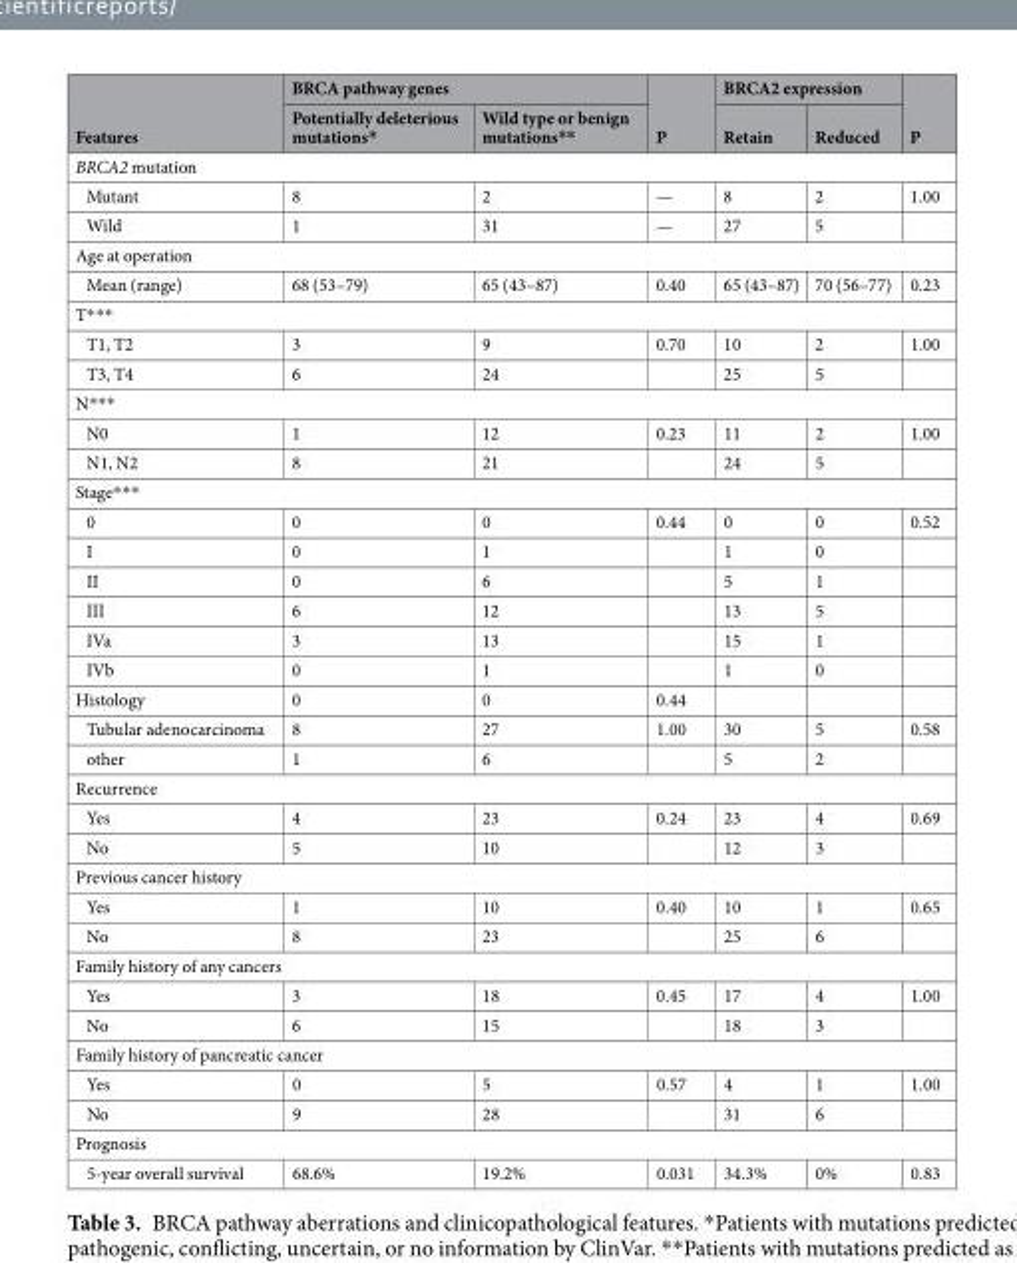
<table><thead><tr><td rowspan="2">Features</td><td colspan="2">BRCA pathway genes</td><td rowspan="2">P</td><td colspan="2">BRCA2 expression</td><td rowspan="2">P</td></tr><tr><td>Potentially deleterious mutations*</td><td>Wild type or benign mutations**</td><td>Retain</td><td>Reduced</td></tr></thead><tbody><tr><td colspan="7">BRCA2 mutation</td></tr><tr><td>Mutant</td><td>8</td><td>2</td><td>—</td><td>8</td><td>2</td><td>1.00</td></tr><tr><td>Wild</td><td>1</td><td>31</td><td>—</td><td>27</td><td>5</td><td></td></tr><tr><td colspan="7">Age at operation</td></tr><tr><td>Mean (range)</td><td>68 (53–79)</td><td>65 (43–87)</td><td>0.40</td><td>65 (43–87)</td><td>70 (56–77)</td><td>0.23</td></tr><tr><td colspan="7">T***</td></tr><tr><td>T1, T2</td><td>3</td><td>9</td><td>0.70</td><td>10</td><td>2</td><td>1.00</td></tr><tr><td>T3, T4</td><td>6</td><td>24</td><td></td><td>25</td><td>5</td><td></td></tr><tr><td colspan="7">N***</td></tr><tr><td>N0</td><td>1</td><td>12</td><td>0.23</td><td>11</td><td>2</td><td>1.00</td></tr><tr><td>N1, N2</td><td>8</td><td>21</td><td></td><td>24</td><td>5</td><td></td></tr><tr><td colspan="7">Stage***</td></tr><tr><td>0</td><td>0</td><td>0</td><td>0.44</td><td>0</td><td>0</td><td>0.52</td></tr><tr><td>I</td><td>0</td><td>1</td><td></td><td>1</td><td>0</td><td></td></tr><tr><td>II</td><td>0</td><td>6</td><td></td><td>5</td><td>1</td><td></td></tr><tr><td>III</td><td>6</td><td>12</td><td></td><td>13</td><td>5</td><td></td></tr><tr><td>IVa</td><td>3</td><td>13</td><td></td><td>15</td><td>1</td><td></td></tr><tr><td>IVb</td><td>0</td><td>1</td><td></td><td>1</td><td>0</td><td></td></tr><tr><td>Histology</td><td>0</td><td>0</td><td>0.44</td><td></td><td></td><td></td></tr><tr><td>Tubular adenocarcinoma</td><td>8</td><td>27</td><td>1.00</td><td>30</td><td>5</td><td>0.58</td></tr><tr><td>other</td><td>1</td><td>6</td><td></td><td>5</td><td>2</td><td></td></tr><tr><td colspan="7">Recurrence</td></tr><tr><td>Yes</td><td>4</td><td>23</td><td>0.24</td><td>23</td><td>4</td><td>0.69</td></tr><tr><td>No</td><td>5</td><td>10</td><td></td><td>12</td><td>3</td><td></td></tr><tr><td colspan="7">Previous cancer history</td></tr><tr><td>Yes</td><td>1</td><td>10</td><td>0.40</td><td>10</td><td>1</td><td>0.65</td></tr><tr><td>No</td><td>8</td><td>23</td><td></td><td>25</td><td>6</td><td></td></tr><tr><td colspan="7">Family history of any cancers</td></tr><tr><td>Yes</td><td>3</td><td>18</td><td>0.45</td><td>17</td><td>4</td><td>1.00</td></tr><tr><td>No</td><td>6</td><td>15</td><td></td><td>18</td><td>3</td><td></td></tr><tr><td colspan="7">Family history of pancreatic cancer</td></tr><tr><td>Yes</td><td>0</td><td>5</td><td>0.57</td><td>4</td><td>1</td><td>1.00</td></tr><tr><td>No</td><td>9</td><td>28</td><td></td><td>31</td><td>6</td><td></td></tr><tr><td colspan="7">Prognosis</td></tr><tr><td>5-year overall survival</td><td>68.6%</td><td>19.2%</td><td>0.031</td><td>34.3%</td><td>0%</td><td>0.83</td></tr></tbody></table>